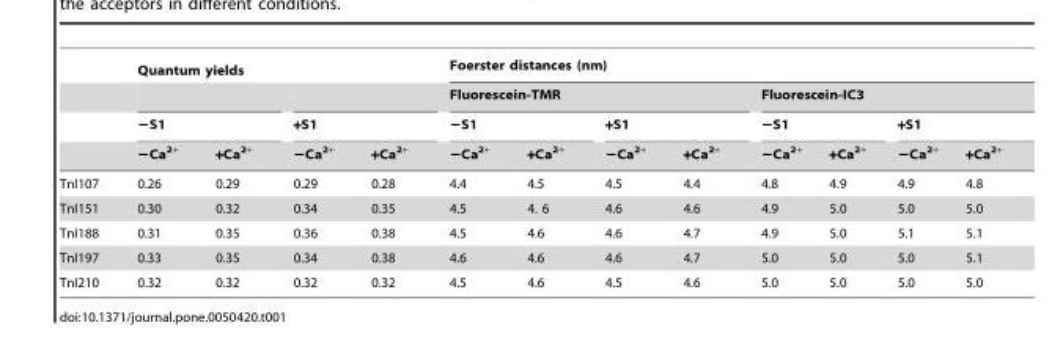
<table><thead><tr><td rowspan="4"></td><td colspan="4">Quantum yields</td><td colspan="8">Foerster distances (nm)</td></tr><tr><td></td><td></td><td></td><td></td><td colspan="4">Fluorescein-TMR</td><td colspan="4">Fluorescein-IC3</td></tr><tr><td colspan="2">−S1</td><td colspan="2">+S1</td><td colspan="2">−S1</td><td colspan="2">+S1</td><td colspan="2">−S1</td><td colspan="2">+S1</td></tr><tr><td>−Ca<sup>2+</sup></td><td>+Ca<sup>2+</sup></td><td>−Ca<sup>2+</sup></td><td>+Ca<sup>2+</sup></td><td>−Ca<sup>2+</sup></td><td>+Ca<sup>2+</sup></td><td>−Ca<sup>2+</sup></td><td>+Ca<sup>2+</sup></td><td>−Ca<sup>2+</sup></td><td>+Ca<sup>2+</sup></td><td>−Ca<sup>2+</sup></td><td>+Ca<sup>2+</sup></td></tr></thead><tbody><tr><td>TnI107</td><td>0.26</td><td>0.29</td><td>0.29</td><td>0.28</td><td>4.4</td><td>4.5</td><td>4.5</td><td>4.4</td><td>4.8</td><td>4.9</td><td>4.9</td><td>4.8</td></tr><tr><td>TnI151</td><td>0.30</td><td>0.32</td><td>0.34</td><td>0.35</td><td>4.5</td><td>4. 6</td><td>4.6</td><td>4.6</td><td>4.9</td><td>5.0</td><td>5.0</td><td>5.0</td></tr><tr><td>TnI188</td><td>0.31</td><td>0.35</td><td>0.36</td><td>0.38</td><td>4.5</td><td>4.6</td><td>4.6</td><td>4.7</td><td>4.9</td><td>5.0</td><td>5.1</td><td>5.1</td></tr><tr><td>TnI197</td><td>0.33</td><td>0.35</td><td>0.34</td><td>0.38</td><td>4.6</td><td>4.6</td><td>4.6</td><td>4.7</td><td>5.0</td><td>5.0</td><td>5.0</td><td>5.1</td></tr><tr><td>TnI210</td><td>0.32</td><td>0.32</td><td>0.32</td><td>0.32</td><td>4.5</td><td>4.6</td><td>4.5</td><td>4.6</td><td>5.0</td><td>5.0</td><td>5.0</td><td>5.0</td></tr></tbody></table>